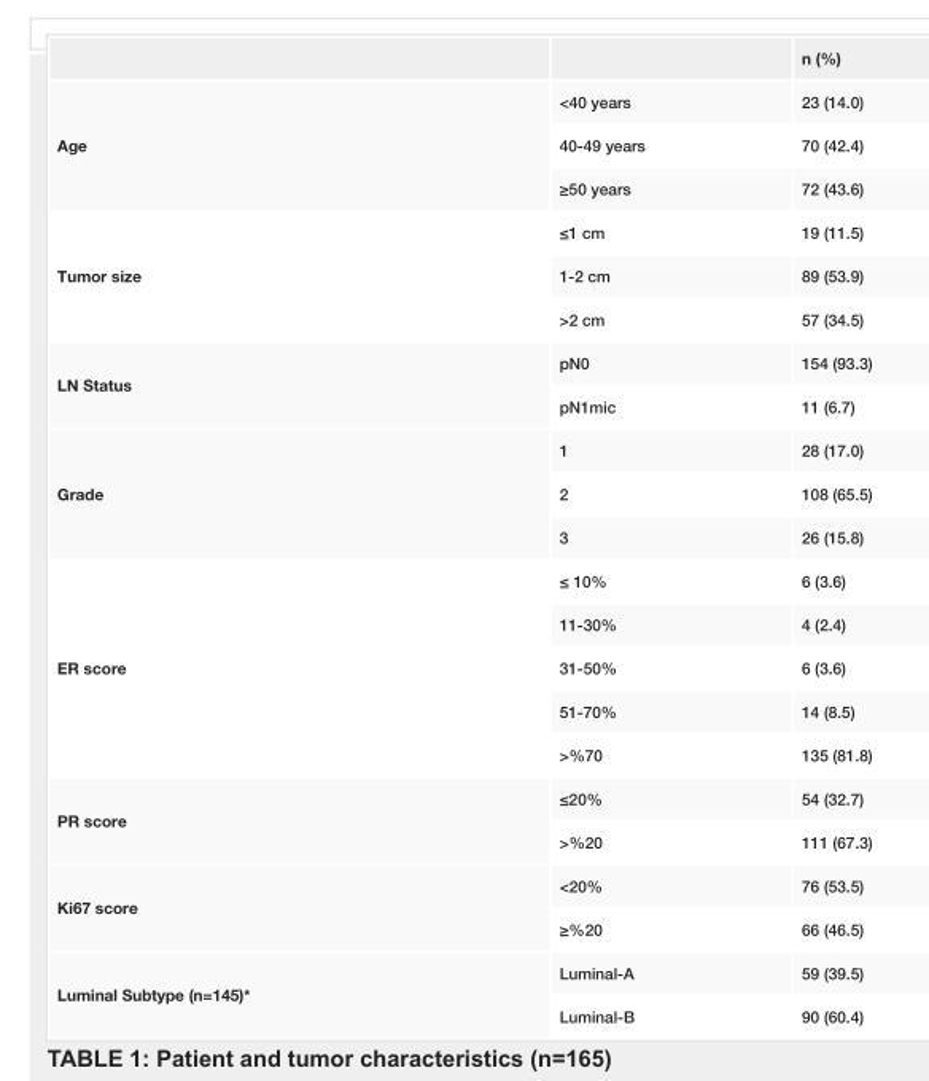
<table><thead><tr><td></td><td></td><td>n (%)</td></tr></thead><tbody><tr><td rowspan="3">Age</td><td>&lt;40 years</td><td>23 (14.0)</td></tr><tr><td>40-49 years</td><td>70 (42.4)</td></tr><tr><td>≥50 years</td><td>72 (43.6)</td></tr><tr><td rowspan="3">Tumor size</td><td>≤1 cm</td><td>19 (11.5)</td></tr><tr><td>1-2 cm</td><td>89 (53.9)</td></tr><tr><td>&gt;2 cm</td><td>57 (34.5)</td></tr><tr><td rowspan="2">LN Status</td><td>pN0</td><td>154 (93.3)</td></tr><tr><td>pN1mic</td><td>11 (6.7)</td></tr><tr><td rowspan="3">Grade</td><td>1</td><td>28 (17.0)</td></tr><tr><td>2</td><td>108 (65.5)</td></tr><tr><td>3</td><td>26 (15.8)</td></tr><tr><td rowspan="5">ER score</td><td>≤ 10%</td><td>6 (3.6)</td></tr><tr><td>11-30%</td><td>4 (2.4)</td></tr><tr><td>31-50%</td><td>6 (3.6)</td></tr><tr><td>51-70%</td><td>14 (8.5)</td></tr><tr><td>&gt;%70</td><td>135 (81.8)</td></tr><tr><td rowspan="2">PR score</td><td>≤20%</td><td>54 (32.7)</td></tr><tr><td>&gt;%20</td><td>111 (67.3)</td></tr><tr><td rowspan="2">Ki67 score</td><td>&lt;20%</td><td>76 (53.5)</td></tr><tr><td>≥%20</td><td>66 (46.5)</td></tr><tr><td rowspan="2">Luminal Subtype (n=145)*</td><td>Luminal-A</td><td>59 (39.5)</td></tr><tr><td>Luminal-B</td><td>90 (60.4)</td></tr></tbody></table>